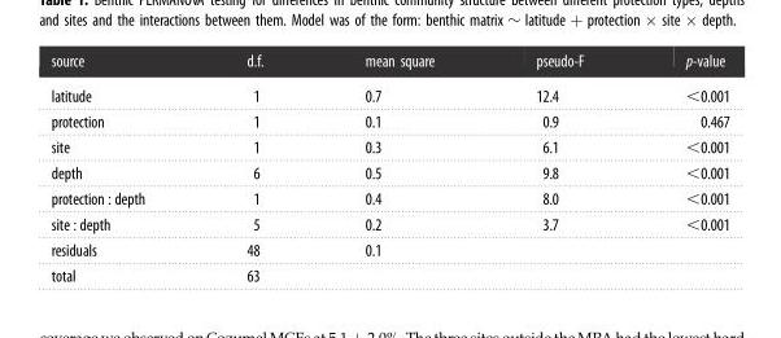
<table><thead><tr><td>source</td><td>d.f.</td><td>mean square</td><td>pseudo-F</td><td>p-value</td></tr></thead><tbody><tr><td>latitude</td><td>1</td><td>0.7</td><td>12.4</td><td>&lt;0.001</td></tr><tr><td>protection</td><td>1</td><td>0.1</td><td>0.9</td><td>0.467</td></tr><tr><td>site</td><td>1</td><td>0.3</td><td>6.1</td><td>&lt;0.001</td></tr><tr><td>depth</td><td>6</td><td>0.5</td><td>9.8</td><td>&lt;0.001</td></tr><tr><td>protection : depth</td><td>1</td><td>0.4</td><td>8.0</td><td>&lt;0.001</td></tr><tr><td>site : depth</td><td>5</td><td>0.2</td><td>3.7</td><td>&lt;0.001</td></tr><tr><td>residuals</td><td>48</td><td>0.1</td><td></td><td></td></tr><tr><td>total</td><td>63</td><td></td><td></td><td></td></tr></tbody></table>